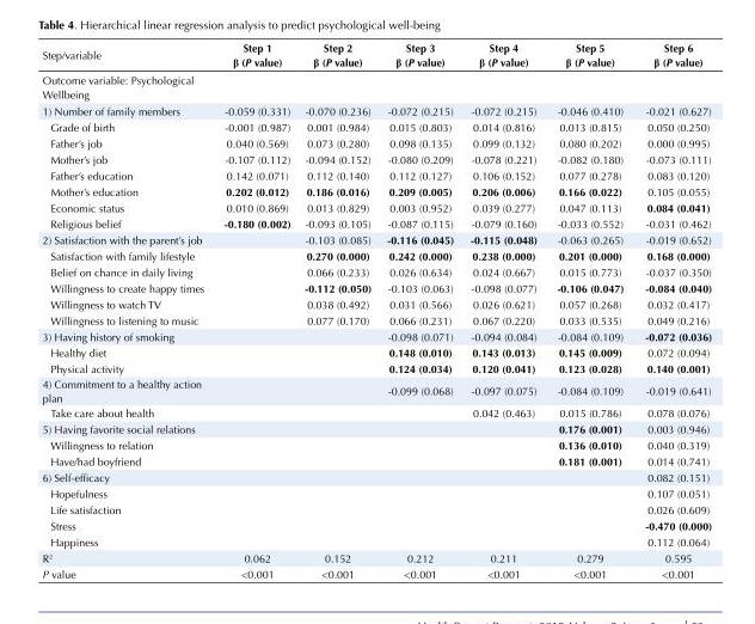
<table><tbody><tr><td>Step/variable</td><td>Step 1 β (P value)</td><td>Step 2 β (P value)</td><td>Step 3 β (P value)</td><td>Step 4 β (P value)</td><td>Step 5 β (P value)</td><td>Step 6 β (P value)</td></tr><tr><td colspan="7">Outcome variable: Psychological Wellbeing</td></tr><tr><td>1) Number of family members</td><td>-0.059 (0.331)</td><td>-0.070 (0.236)</td><td>-0.072 (0.215)</td><td>-0.072 (0.215)</td><td>-0.046 (0.410)</td><td>-0.021 (0.627)</td></tr><tr><td>Grade of birth</td><td>-0.001 (0.987)</td><td>0.001 (0.984)</td><td>0.015 (0.803)</td><td>0.014 (0.816)</td><td>0.013 (0.815)</td><td>0.050 (0.250)</td></tr><tr><td>Father’s job</td><td>0.040 (0.569)</td><td>0.073 (0.280)</td><td>0.098 (0.135)</td><td>0.099 (0.132)</td><td>0.080 (0.202)</td><td>0.000 (0.995)</td></tr><tr><td>Mother’s job</td><td>-0.107 (0.112)</td><td>-0.094 (0.152)</td><td>-0.080 (0.209)</td><td>-0.078 (0.221)</td><td>-0.082 (0.180)</td><td>-0.073 (0.111)</td></tr><tr><td>Father’s education</td><td>0.142 (0.071)</td><td>0.112 (0.140)</td><td>0.112 (0.127)</td><td>0.106 (0.152)</td><td>0.077 (0.278)</td><td>0.083 (0.120)</td></tr><tr><td>Mother’s education</td><td>0.202 (0.012)</td><td>0.186 (0.016)</td><td>0.209 (0.005)</td><td>0.206 (0.006)</td><td>0.166 (0.022)</td><td>0.105 (0.055)</td></tr><tr><td>Economic status</td><td>0.010 (0.869)</td><td>0.013 (0.829)</td><td>0.003 (0.952)</td><td>0.039 (0.277)</td><td>0.047 (0.113)</td><td>0.084 (0.041)</td></tr><tr><td>Religious belief</td><td>-0.180 (0.002)</td><td>-0.093 (0.105)</td><td>-0.087 (0.115)</td><td>-0.079 (0.160)</td><td>-0.033 (0.552)</td><td>-0.031 (0.462)</td></tr><tr><td>2) Satisfaction with the parent’s job</td><td></td><td>-0.103 (0.085)</td><td>-0.116 (0.045)</td><td>-0.115 (0.048)</td><td>-0.063 (0.265)</td><td>-0.019 (0.652)</td></tr><tr><td>Satisfaction with family lifestyle</td><td></td><td>0.270 (0.000)</td><td>0.242 (0.000)</td><td>0.238 (0.000)</td><td>0.201 (0.000)</td><td>0.168 (0.000)</td></tr><tr><td>Belief on chance in daily living</td><td></td><td>0.066 (0.233)</td><td>0.026 (0.634)</td><td>0.024 (0.667)</td><td>0.015 (0.773)</td><td>-0.037 (0.350)</td></tr><tr><td>Willingness to create happy times</td><td></td><td>-0.112 (0.050)</td><td>-0.103 (0.063)</td><td>-0.098 (0.077)</td><td>-0.106 (0.047)</td><td>-0.084 (0.040)</td></tr><tr><td>Willingness to watch TV</td><td></td><td>0.038 (0.492)</td><td>0.031 (0.566)</td><td>0.026 (0.621)</td><td>0.057 (0.268)</td><td>0.032 (0.417)</td></tr><tr><td>Willingness to listening to music</td><td></td><td>0.077 (0.170)</td><td>0.066 (0.231)</td><td>0.067 (0.220)</td><td>0.033 (0.535)</td><td>0.049 (0.216)</td></tr><tr><td>3) Having history of smoking</td><td></td><td></td><td>-0.098 (0.071)</td><td>-0.094 (0.084)</td><td>-0.084 (0.109)</td><td>-0.072 (0.036)</td></tr><tr><td>Healthy diet</td><td></td><td></td><td>0.148 (0.010)</td><td>0.143 (0.013)</td><td>0.145 (0.009)</td><td>0.072 (0.094)</td></tr><tr><td>Physical activity</td><td></td><td></td><td>0.124 (0.034)</td><td>0.120 (0.041)</td><td>0.123 (0.028)</td><td>0.140 (0.001)</td></tr><tr><td>4) Commitment to a healthy action plan</td><td></td><td></td><td>-0.099 (0.068)</td><td>-0.097 (0.075)</td><td>-0.084 (0.109)</td><td>-0.019 (0.641)</td></tr><tr><td>Take care about health</td><td></td><td></td><td></td><td>0.042 (0.463)</td><td>0.015 (0.786)</td><td>0.078 (0.076)</td></tr><tr><td>5) Having favorite social relations</td><td></td><td></td><td></td><td></td><td>0.176 (0.001)</td><td>0.003 (0.946)</td></tr><tr><td>Willingness to relation</td><td></td><td></td><td></td><td></td><td>0.136 (0.010)</td><td>0.040 (0.319)</td></tr><tr><td>Have/had boyfriend</td><td></td><td></td><td></td><td></td><td>0.181 (0.001)</td><td>0.014 (0.741)</td></tr><tr><td>6) Self-efficacy</td><td></td><td></td><td></td><td></td><td></td><td>0.082 (0.151)</td></tr><tr><td>Hopefulness</td><td></td><td></td><td></td><td></td><td></td><td>0.107 (0.051)</td></tr><tr><td>Life satisfaction</td><td></td><td></td><td></td><td></td><td></td><td>0.026 (0.609)</td></tr><tr><td>Stress</td><td></td><td></td><td></td><td></td><td></td><td>-0.470 (0.000)</td></tr><tr><td>Happiness</td><td></td><td></td><td></td><td></td><td></td><td>0.112 (0.064)</td></tr><tr><td>R<sup>2</sup></td><td>0.062</td><td>0.152</td><td>0.212</td><td>0.211</td><td>0.279</td><td>0.595</td></tr><tr><td>P value</td><td>&lt;0.001</td><td>&lt;0.001</td><td>&lt;0.001</td><td>&lt;0.001</td><td>&lt;0.001</td><td>&lt;0.001</td></tr></tbody></table>